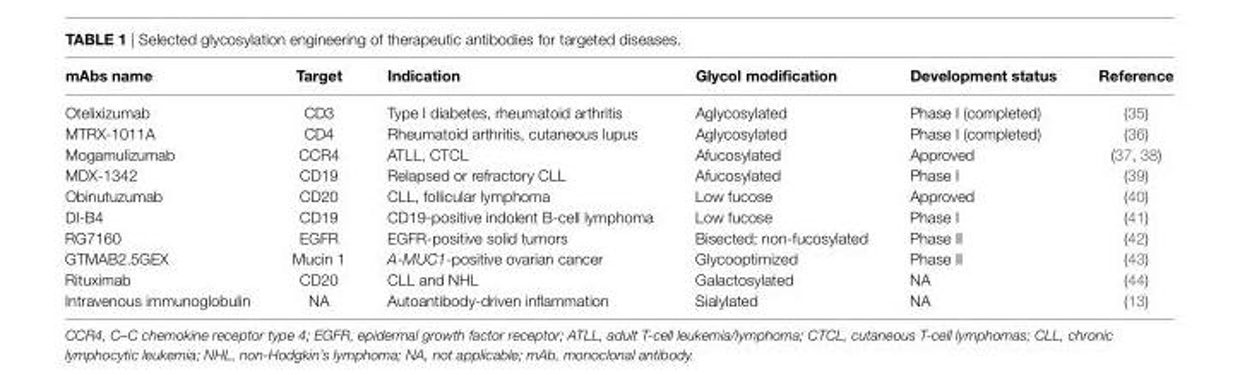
<table><thead><tr><td>mAbs name</td><td>Target</td><td>indication</td><td>Glycol modification</td><td>Development status</td><td>Reference</td></tr></thead><tbody><tr><td>Otelixizumab</td><td>CD3</td><td>Type I diabetes, rheumatoid arthritis</td><td>Aglycosylated</td><td>Phase I (completed)</td><td>(35)</td></tr><tr><td>MTRX-1011A</td><td>CD4</td><td>Rheumatoid arthritis, cutaneous lupus</td><td>Aglycosylated</td><td>Phase I (completed)</td><td>(36)</td></tr><tr><td>Mogamulizumab</td><td>CCR4</td><td>ATLL, CTCL</td><td>Afucosylated</td><td>Approved</td><td>(37, 38)</td></tr><tr><td>MDX-1342</td><td>CD19</td><td>Relapsed or refractory CLL</td><td>Afucosylated</td><td>Phase I</td><td>(39)</td></tr><tr><td>Obinutuzumab</td><td>CD20</td><td>CLL, follicular lymphoma</td><td>Low fucose</td><td>Approved</td><td>(40)</td></tr><tr><td>DI-B4</td><td>CD19</td><td>CD19-positive indolent B-cell lymphoma</td><td>Low fucose</td><td>Phase I</td><td>(41)</td></tr><tr><td>RG7160</td><td>EGFR</td><td>EGFR-positive solid tumors</td><td>Bisected; non-fucosylated</td><td>Phase II</td><td>(42)</td></tr><tr><td>GTMAB2.5GEX</td><td>Mucin 1</td><td>A-MUC1-positive ovarian cancer</td><td>Glycooptimized</td><td>Phase II</td><td>(43)</td></tr><tr><td>Rituximab</td><td>CD20</td><td>CLL and NHL</td><td>Galactosylated</td><td>NA</td><td>(44)</td></tr><tr><td>Intravenous immunoglobulin</td><td>NA</td><td>Autoantibody-driven inflammation</td><td>Sialylated</td><td>NA</td><td>(13)</td></tr></tbody></table>